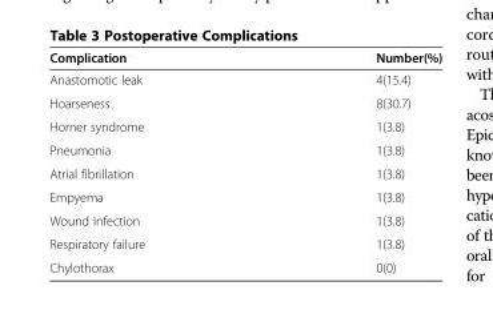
<table><thead><tr><td>Complication</td><td>Number(%)</td></tr></thead><tbody><tr><td>Anastomotic leak</td><td>4(15.4)</td></tr><tr><td>Hoarseness</td><td>8(30.7)</td></tr><tr><td>Horner syndrome</td><td>1(3.8)</td></tr><tr><td>Pneumonia</td><td>1(3.8)</td></tr><tr><td>Atrial fibrillation</td><td>1(3.8)</td></tr><tr><td>Empyema</td><td>1(3.8)</td></tr><tr><td>Wound infection</td><td>1(3.8)</td></tr><tr><td>Respiratory failure</td><td>1(3.8)</td></tr><tr><td>Chylothorax</td><td>0(0)</td></tr></tbody></table>